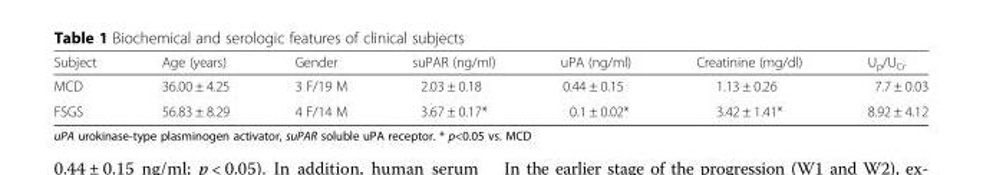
<table><thead><tr><td>Subject</td><td>Age (years)</td><td>Gender</td><td>suPAR (ng/ml)</td><td>uPA (ng/ml)</td><td>Creatinine (mg/dl)</td><td>U<sub>p</sub>/U<sub>Cr</sub></td></tr></thead><tbody><tr><td>MCD</td><td>36.00 ± 4.25</td><td>3 F/19 M</td><td>2.03 ± 0.18</td><td>0.44 ± 0.15</td><td>1.13 ± 0.26</td><td>7.7 ± 0.03</td></tr><tr><td>FSGS</td><td>56.83 ± 8.29</td><td>4 F/14 M</td><td>3.67 ± 0.17*</td><td>0.1 ± 0.02*</td><td>3.42 ± 1.41*</td><td>8.92 ± 4.12</td></tr></tbody></table>